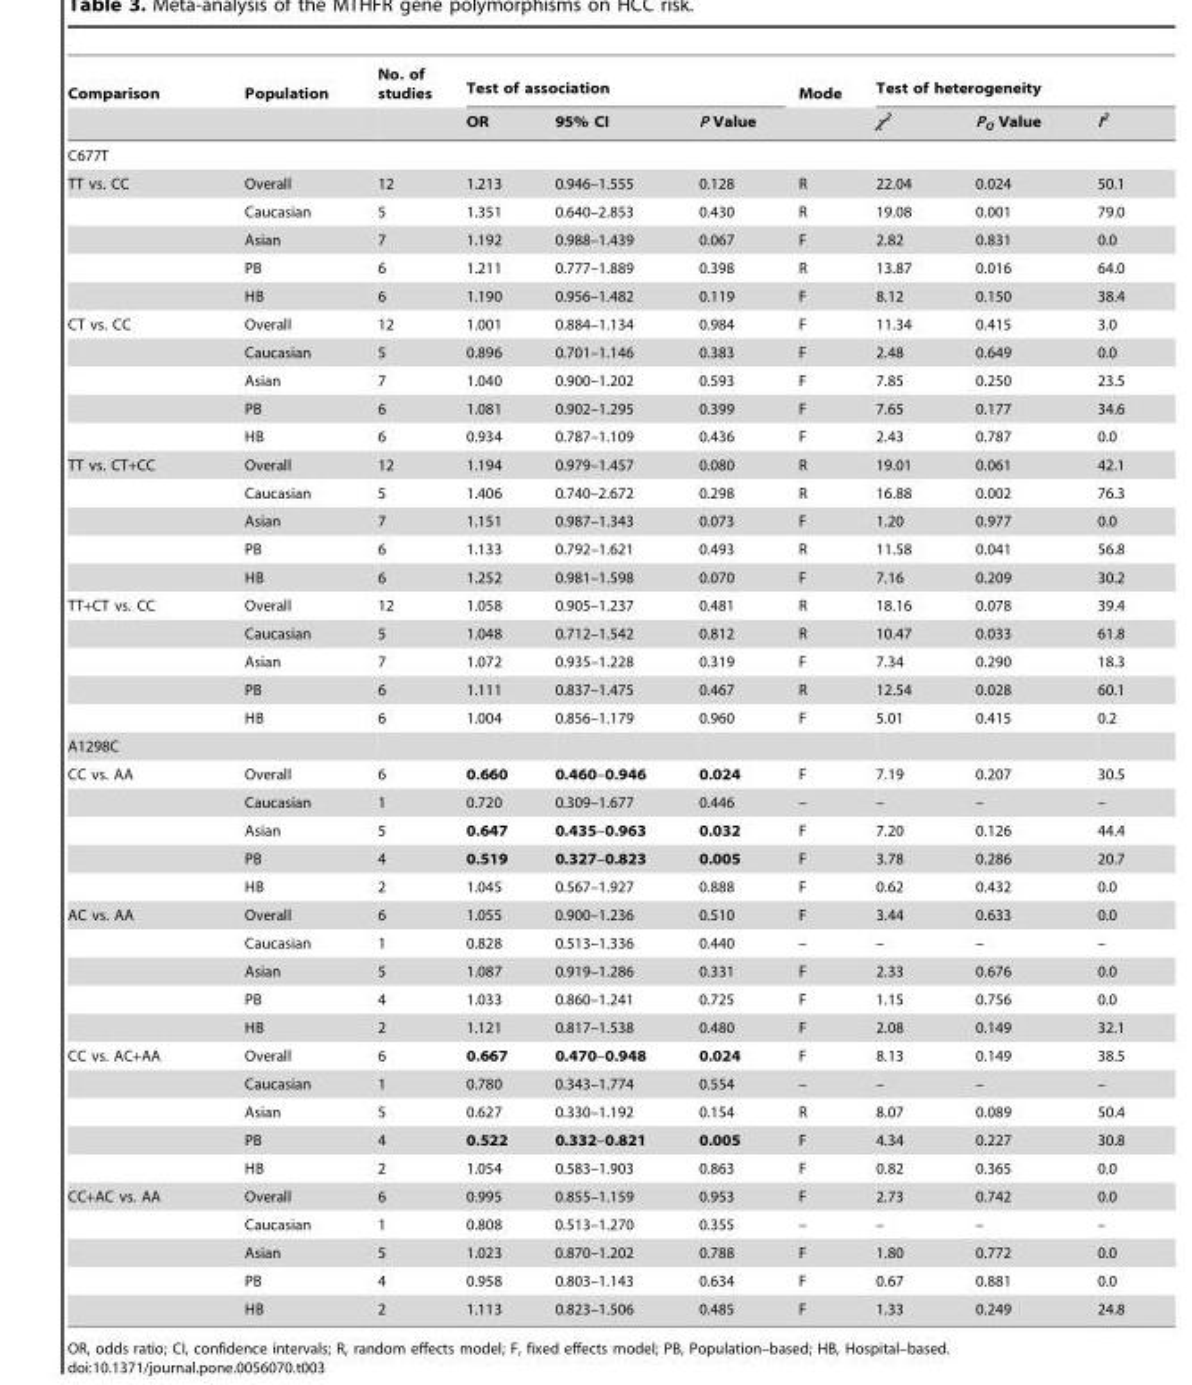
<table><thead><tr><td rowspan="2">Comparison</td><td rowspan="2">Population</td><td rowspan="2">No. of studies</td><td colspan="3">Test of association</td><td rowspan="2">Mode</td><td colspan="3">Test of heterogeneity</td></tr><tr><td>OR</td><td>95% CI</td><td>P Value</td><td>χ<sup>2</sup></td><td>P<sub>Q</sub> Value</td><td>I<sup>2</sup></td></tr></thead><tbody><tr><td colspan="10">C677T</td></tr><tr><td rowspan="5">TT vs. CC</td><td>Overall</td><td>12</td><td>1.213</td><td>0.946–1.555</td><td>0.128</td><td>R</td><td>22.04</td><td>0.024</td><td>50.1</td></tr><tr><td>Caucasian</td><td>5</td><td>1.351</td><td>0.640–2.853</td><td>0.430</td><td>R</td><td>19.08</td><td>0.001</td><td>79.0</td></tr><tr><td>Asian</td><td>7</td><td>1.192</td><td>0.988–1.439</td><td>0.067</td><td>F</td><td>2.82</td><td>0.831</td><td>0.0</td></tr><tr><td>PB</td><td>6</td><td>1.211</td><td>0.777–1.889</td><td>0.398</td><td>R</td><td>13.87</td><td>0.016</td><td>64.0</td></tr><tr><td>HB</td><td>6</td><td>1.190</td><td>0.956–1.482</td><td>0.119</td><td>F</td><td>8.12</td><td>0.150</td><td>38.4</td></tr><tr><td rowspan="5">CT vs. CC</td><td>Overall</td><td>12</td><td>1.001</td><td>0.884–1.134</td><td>0.984</td><td>F</td><td>11.34</td><td>0.415</td><td>3.0</td></tr><tr><td>Caucasian</td><td>5</td><td>0.896</td><td>0.701–1.146</td><td>0.383</td><td>F</td><td>2.48</td><td>0.649</td><td>0.0</td></tr><tr><td>Asian</td><td>7</td><td>1.040</td><td>0.900–1.202</td><td>0.593</td><td>F</td><td>7.85</td><td>0.250</td><td>23.5</td></tr><tr><td>PB</td><td>6</td><td>1.081</td><td>0.902–1.295</td><td>0.399</td><td>F</td><td>7.65</td><td>0.177</td><td>34.6</td></tr><tr><td>HB</td><td>6</td><td>0.934</td><td>0.787–1.109</td><td>0.436</td><td>F</td><td>2.43</td><td>0.787</td><td>0.0</td></tr><tr><td rowspan="5">TT vs. CT+CC</td><td>Overall</td><td>12</td><td>1.194</td><td>0.979–1.457</td><td>0.080</td><td>R</td><td>19.01</td><td>0.061</td><td>42.1</td></tr><tr><td>Caucasian</td><td>5</td><td>1.406</td><td>0.740–2.672</td><td>0.298</td><td>R</td><td>16.88</td><td>0.002</td><td>76.3</td></tr><tr><td>Asian</td><td>7</td><td>1.151</td><td>0.987–1.343</td><td>0.073</td><td>F</td><td>1.20</td><td>0.977</td><td>0.0</td></tr><tr><td>PB</td><td>6</td><td>1.133</td><td>0.792–1.621</td><td>0.493</td><td>R</td><td>11.58</td><td>0.041</td><td>56.8</td></tr><tr><td>HB</td><td>6</td><td>1.252</td><td>0.981–1.598</td><td>0.070</td><td>F</td><td>7.16</td><td>0.209</td><td>30.2</td></tr><tr><td rowspan="5">TT+CT vs. CC</td><td>Overall</td><td>12</td><td>1.058</td><td>0.905–1.237</td><td>0.481</td><td>R</td><td>18.16</td><td>0.078</td><td>39.4</td></tr><tr><td>Caucasian</td><td>5</td><td>1.048</td><td>0.712–1.542</td><td>0.812</td><td>R</td><td>10.47</td><td>0.033</td><td>61.8</td></tr><tr><td>Asian</td><td>7</td><td>1.072</td><td>0.935–1.228</td><td>0.319</td><td>F</td><td>7.34</td><td>0.290</td><td>18.3</td></tr><tr><td>PB</td><td>6</td><td>1.111</td><td>0.837–1.475</td><td>0.467</td><td>R</td><td>12.54</td><td>0.028</td><td>60.1</td></tr><tr><td>HB</td><td>6</td><td>1.004</td><td>0.856–1.179</td><td>0.960</td><td>F</td><td>5.01</td><td>0.415</td><td>0.2</td></tr><tr><td colspan="10">A1298C</td></tr><tr><td rowspan="5">CC vs. AA</td><td>Overall</td><td>6</td><td>0.660</td><td>0.460–0.946</td><td>0.024</td><td>F</td><td>7.19</td><td>0.207</td><td>30.5</td></tr><tr><td>Caucasian</td><td>1</td><td>0.720</td><td>0.309–1.677</td><td>0.446</td><td>–</td><td>–</td><td>–</td><td>–</td></tr><tr><td>Asian</td><td>5</td><td>0.647</td><td>0.435–0.963</td><td>0.032</td><td>F</td><td>7.20</td><td>0.126</td><td>44.4</td></tr><tr><td>PB</td><td>4</td><td>0.519</td><td>0.327–0.823</td><td>0.005</td><td>F</td><td>3.78</td><td>0.286</td><td>20.7</td></tr><tr><td>HB</td><td>2</td><td>1.045</td><td>0.567–1.927</td><td>0.888</td><td>F</td><td>0.62</td><td>0.432</td><td>0.0</td></tr><tr><td rowspan="5">AC vs. AA</td><td>Overall</td><td>6</td><td>1.055</td><td>0.900–1.236</td><td>0.510</td><td>F</td><td>3.44</td><td>0.633</td><td>0.0</td></tr><tr><td>Caucasian</td><td>1</td><td>0.828</td><td>0.513–1.336</td><td>0.440</td><td>–</td><td>–</td><td>–</td><td>–</td></tr><tr><td>Asian</td><td>5</td><td>1.087</td><td>0.919–1.286</td><td>0.331</td><td>F</td><td>2.33</td><td>0.676</td><td>0.0</td></tr><tr><td>PB</td><td>4</td><td>1.033</td><td>0.860–1.241</td><td>0.725</td><td>F</td><td>1.15</td><td>0.756</td><td>0.0</td></tr><tr><td>HB</td><td>2</td><td>1.121</td><td>0.817–1.538</td><td>0.480</td><td>F</td><td>2.08</td><td>0.149</td><td>32.1</td></tr><tr><td rowspan="5">CC vs. AC+AA</td><td>Overall</td><td>6</td><td>0.667</td><td>0.470–0.948</td><td>0.024</td><td>F</td><td>8.13</td><td>0.149</td><td>38.5</td></tr><tr><td>Caucasian</td><td>1</td><td>0.780</td><td>0.343–1.774</td><td>0.554</td><td>–</td><td>–</td><td>–</td><td>–</td></tr><tr><td>Asian</td><td>5</td><td>0.627</td><td>0.330–1.192</td><td>0.154</td><td>R</td><td>8.07</td><td>0.089</td><td>50.4</td></tr><tr><td>PB</td><td>4</td><td>0.522</td><td>0.332–0.821</td><td>0.005</td><td>F</td><td>4.34</td><td>0.227</td><td>30.8</td></tr><tr><td>HB</td><td>2</td><td>1.054</td><td>0.583–1.903</td><td>0.863</td><td>F</td><td>0.82</td><td>0.365</td><td>0.0</td></tr><tr><td rowspan="5">CC+AC vs. AA</td><td>Overall</td><td>6</td><td>0.995</td><td>0.855–1.159</td><td>0.953</td><td>F</td><td>2.73</td><td>0.742</td><td>0.0</td></tr><tr><td>Caucasian</td><td>1</td><td>0.808</td><td>0.513–1.270</td><td>0.355</td><td>–</td><td>–</td><td>–</td><td>–</td></tr><tr><td>Asian</td><td>5</td><td>1.023</td><td>0.870–1.202</td><td>0.788</td><td>F</td><td>1.80</td><td>0.772</td><td>0.0</td></tr><tr><td>PB</td><td>4</td><td>0.958</td><td>0.803–1.143</td><td>0.634</td><td>F</td><td>0.67</td><td>0.881</td><td>0.0</td></tr><tr><td>HB</td><td>2</td><td>1.113</td><td>0.823–1.506</td><td>0.485</td><td>F</td><td>1.33</td><td>0.249</td><td>24.8</td></tr></tbody></table>